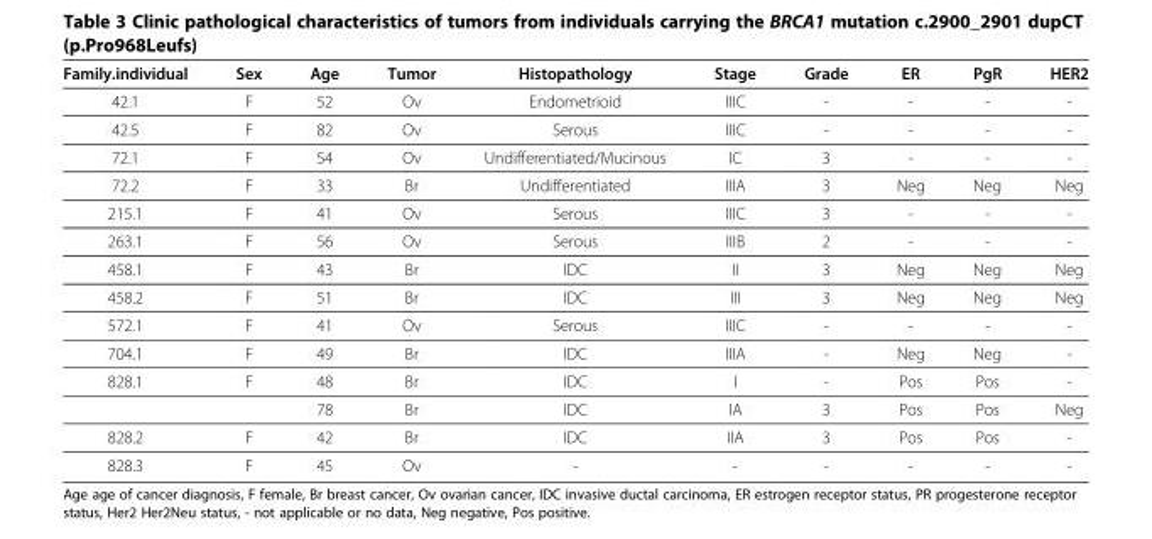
<table><thead><tr><td>Family.individual</td><td>Sex</td><td>Age</td><td>Tumor</td><td>Histopathology</td><td>Stage</td><td>Grade</td><td>ER</td><td>PgR</td><td>HER2</td></tr></thead><tbody><tr><td>42.1</td><td>F</td><td>52</td><td>Ov</td><td>Endometrioid</td><td>IIIC</td><td>-</td><td>-</td><td>-</td><td>-</td></tr><tr><td>42.5</td><td>F</td><td>82</td><td>Ov</td><td>Serous</td><td>IIIC</td><td>-</td><td>-</td><td>-</td><td>-</td></tr><tr><td>72.1</td><td>F</td><td>54</td><td>Ov</td><td>Undifferentiated/Mucinous</td><td>IC</td><td>3</td><td>-</td><td>-</td><td>-</td></tr><tr><td>72.2</td><td>F</td><td>33</td><td>Br</td><td>Undifferentiated</td><td>IIIA</td><td>3</td><td>Neg</td><td>Neg</td><td>Neg</td></tr><tr><td>215.1</td><td>F</td><td>41</td><td>Ov</td><td>Serous</td><td>IIIC</td><td>3</td><td>-</td><td>-</td><td>-</td></tr><tr><td>263.1</td><td>F</td><td>56</td><td>Ov</td><td>Serous</td><td>IIIB</td><td>2</td><td>-</td><td>-</td><td>-</td></tr><tr><td>458.1</td><td>F</td><td>43</td><td>Br</td><td>IDC</td><td>II</td><td>3</td><td>Neg</td><td>Neg</td><td>Neg</td></tr><tr><td>458.2</td><td>F</td><td>51</td><td>Br</td><td>IDC</td><td>III</td><td>3</td><td>Neg</td><td>Neg</td><td>Neg</td></tr><tr><td>572.1</td><td>F</td><td>41</td><td>Ov</td><td>Serous</td><td>IIIC</td><td>-</td><td>-</td><td>-</td><td>-</td></tr><tr><td>704.1</td><td>F</td><td>49</td><td>Br</td><td>IDC</td><td>IIIA</td><td>-</td><td>Neg</td><td>Neg</td><td>-</td></tr><tr><td rowspan="2">828.1</td><td>F</td><td>48</td><td>Br</td><td>IDC</td><td>I</td><td>-</td><td>Pos</td><td>Pos</td><td>-</td></tr><tr><td></td><td>78</td><td>Br</td><td>IDC</td><td>IA</td><td>3</td><td>Pos</td><td>Pos</td><td>Neg</td></tr><tr><td>828.2</td><td>F</td><td>42</td><td>Br</td><td>IDC</td><td>IIA</td><td>3</td><td>Pos</td><td>Pos</td><td>-</td></tr><tr><td>828.3</td><td>F</td><td>45</td><td>Ov</td><td>-</td><td>-</td><td>-</td><td>-</td><td>-</td><td>-</td></tr></tbody></table>